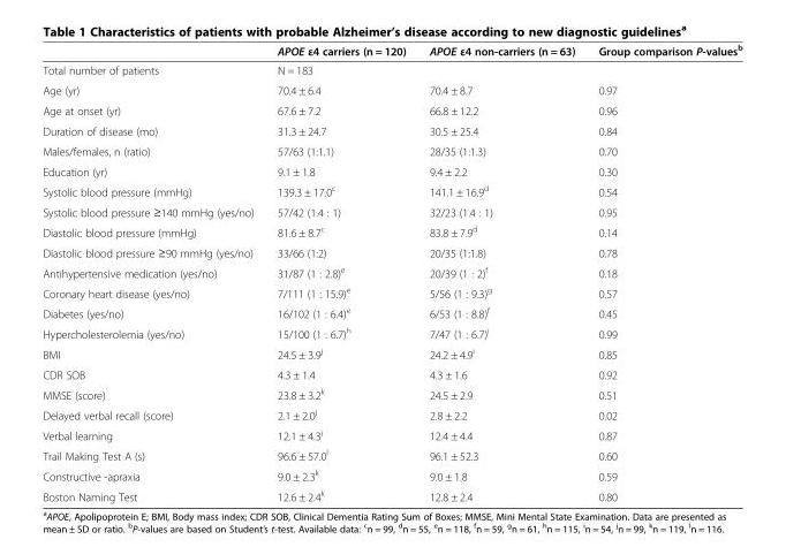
<table><thead><tr><td></td><td>APOE ε4 carriers (n = 120)</td><td>APOE ε4 non-carriers (n = 63)</td><td>Group comparison P-values<sup>b</sup></td></tr></thead><tbody><tr><td>Total number of patients</td><td colspan="2">N = 183</td><td></td></tr><tr><td>Age (yr)</td><td>70.4 ± 6.4</td><td>70.4 ± 8.7</td><td>0.97</td></tr><tr><td>Age at onset (yr)</td><td>67.6 ± 7.2</td><td>66.8 ± 12.2</td><td>0.96</td></tr><tr><td>Duration of disease (mo)</td><td>31.3 ± 24.7</td><td>30.5 ± 25.4</td><td>0.84</td></tr><tr><td>Males/females, n (ratio)</td><td>57/63 (1:1.1)</td><td>28/35 (1:1.3)</td><td>0.70</td></tr><tr><td>Education (yr)</td><td>9.1 ± 1.8</td><td>9.4 ± 2.2</td><td>0.30</td></tr><tr><td>Systolic blood pressure (mmHg)</td><td>139.3 ± 17.0<sup>c</sup></td><td>141.1 ± 16.9<sup>d</sup></td><td>0.54</td></tr><tr><td>Systolic blood pressure ≥140 mmHg (yes/no)</td><td>57/42 (1.4 : 1)</td><td>32/23 (1.4 : 1)</td><td>0.95</td></tr><tr><td>Diastolic blood pressure (mmHg)</td><td>81.6 ± 8.7<sup>c</sup></td><td>83.8 ± 7.9<sup>d</sup></td><td>0.14</td></tr><tr><td>Diastolic blood pressure ≥90 mmHg (yes/no)</td><td>33/66 (1:2)</td><td>20/35 (1:1.8)</td><td>0.78</td></tr><tr><td>Antihypertensive medication (yes/no)</td><td>31/87 (1 : 2.8)<sup>e</sup></td><td>20/39 (1 : 2)<sup>f</sup></td><td>0.18</td></tr><tr><td>Coronary heart disease (yes/no)</td><td>7/111 (1 : 15.9)<sup>e</sup></td><td>5/56 (1 : 9.3)<sup>g</sup></td><td>0.57</td></tr><tr><td>Diabetes (yes/no)</td><td>16/102 (1 : 6.4)<sup>e</sup></td><td>6/53 (1 : 8.8)<sup>f</sup></td><td>0.45</td></tr><tr><td>Hypercholesterolemia (yes/no)</td><td>15/100 (1 : 6.7)<sup>h</sup></td><td>7/47 (1 : 6.7)<sup>i</sup></td><td>0.99</td></tr><tr><td>BMI</td><td>24.5 ± 3.9<sup>j</sup></td><td>24.2 ± 4.9<sup>i</sup></td><td>0.85</td></tr><tr><td>CDR SOB</td><td>4.3 ± 1.4</td><td>4.3 ± 1.6</td><td>0.92</td></tr><tr><td>MMSE (score)</td><td>23.8 ± 3.2<sup>k</sup></td><td>24.5 ± 2.9</td><td>0.51</td></tr><tr><td>Delayed verbal recall (score)</td><td>2.1 ± 2.0<sup>j</sup></td><td>2.8 ± 2.2</td><td>0.02</td></tr><tr><td>Verbal learning</td><td>12.1 ± 4.3<sup>j</sup></td><td>12.4 ± 4.4</td><td>0.87</td></tr><tr><td>Trail Making Test A (s)</td><td>96.6 ± 57.0<sup>l</sup></td><td>96.1 ± 52.3</td><td>0.60</td></tr><tr><td>Constructive -apraxia</td><td>9.0 ± 2.3<sup>k</sup></td><td>9.0 ± 1.8</td><td>0.59</td></tr><tr><td>Boston Naming Test</td><td>12.6 ± 2.4<sup>k</sup></td><td>12.8 ± 2.4</td><td>0.80</td></tr></tbody></table>